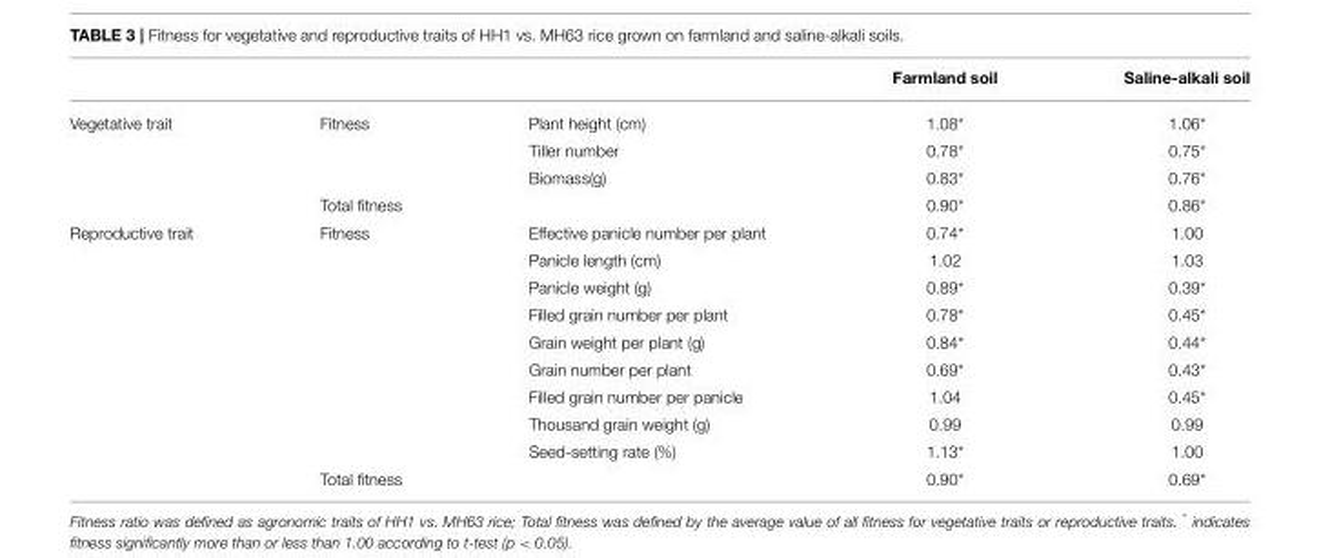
<table><thead><tr><td></td><td></td><td></td><td>Farmland soil</td><td>Saline-alkali soil</td></tr></thead><tbody><tr><td rowspan="4">Vegetative trait</td><td>Fitness</td><td>Plant height (cm)</td><td>1.08*</td><td>1.06*</td></tr><tr><td></td><td>Tiller number</td><td>0.78*</td><td>0.75*</td></tr><tr><td></td><td>Biomass(g)</td><td>0.83*</td><td>0.76*</td></tr><tr><td>Total fitness</td><td></td><td>0.90*</td><td>0.86*</td></tr><tr><td rowspan="10">Reproductive trait</td><td>Fitness</td><td>Effective panicle number per plant</td><td>0.74*</td><td>1.00</td></tr><tr><td></td><td>Panicle length (cm)</td><td>1.02</td><td>1.03</td></tr><tr><td></td><td>Panicle weight (g)</td><td>0.89*</td><td>0.39*</td></tr><tr><td></td><td>Filled grain number per plant</td><td>0.78*</td><td>0.45*</td></tr><tr><td></td><td>Grain weight per plant (g)</td><td>0.84*</td><td>0.44*</td></tr><tr><td></td><td>Grain number per plant</td><td>0.69*</td><td>0.43*</td></tr><tr><td></td><td>Filled grain number per panicle</td><td>1.04</td><td>0.45*</td></tr><tr><td></td><td>Thousand grain weight (g)</td><td>0.99</td><td>0.99</td></tr><tr><td></td><td>Seed-setting rate (%)</td><td>1.13*</td><td>1.00</td></tr><tr><td>Total fitness</td><td></td><td>0.90*</td><td>0.69*</td></tr></tbody></table>